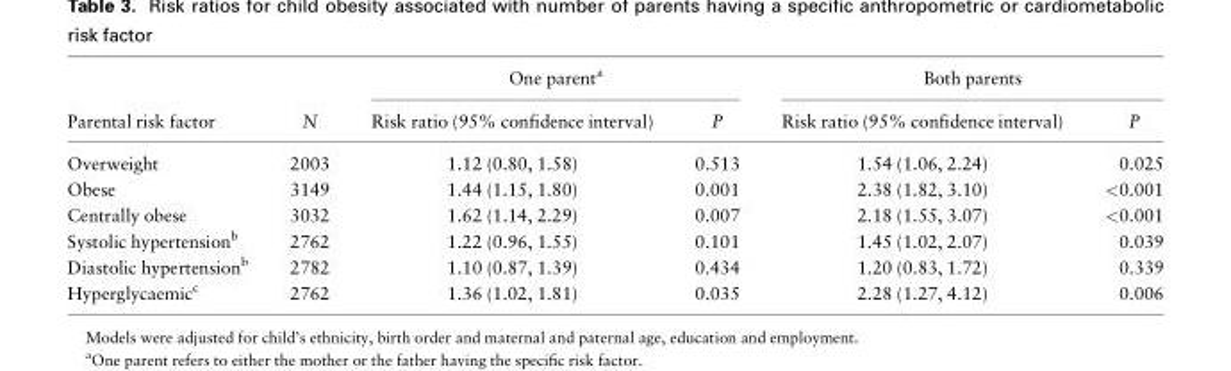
<table><thead><tr><td rowspan="2">Parental risk factor</td><td rowspan="2">N</td><td colspan="2">One parent<sup>a</sup></td><td colspan="2">Both parents</td></tr><tr><td>Risk ratio (95% confidence interval)</td><td>P</td><td>Risk ratio (95% confidence interval)</td><td>P</td></tr></thead><tbody><tr><td>Overweight</td><td>2003</td><td>1.12 (0.80, 1.58)</td><td>0.513</td><td>1.54 (1.06, 2.24)</td><td>0.025</td></tr><tr><td>Obese</td><td>3149</td><td>1.44 (1.15, 1.80)</td><td>0.001</td><td>2.38 (1.82, 3.10)</td><td>&lt;0.001</td></tr><tr><td>Centrally obese</td><td>3032</td><td>1.62 (1.14, 2.29)</td><td>0.007</td><td>2.18 (1.55, 3.07)</td><td>&lt;0.001</td></tr><tr><td>Systolic hypertension<sup>b</sup></td><td>2762</td><td>1.22 (0.96, 1.55)</td><td>0.101</td><td>1.45 (1.02, 2.07)</td><td>0.039</td></tr><tr><td>Diastolic hypertension<sup>b</sup></td><td>2782</td><td>1.10 (0.87, 1.39)</td><td>0.434</td><td>1.20 (0.83, 1.72)</td><td>0.339</td></tr><tr><td>Hyperglycaemic<sup>c</sup></td><td>2762</td><td>1.36 (1.02, 1.81)</td><td>0.035</td><td>2.28 (1.27, 4.12)</td><td>0.006</td></tr></tbody></table>